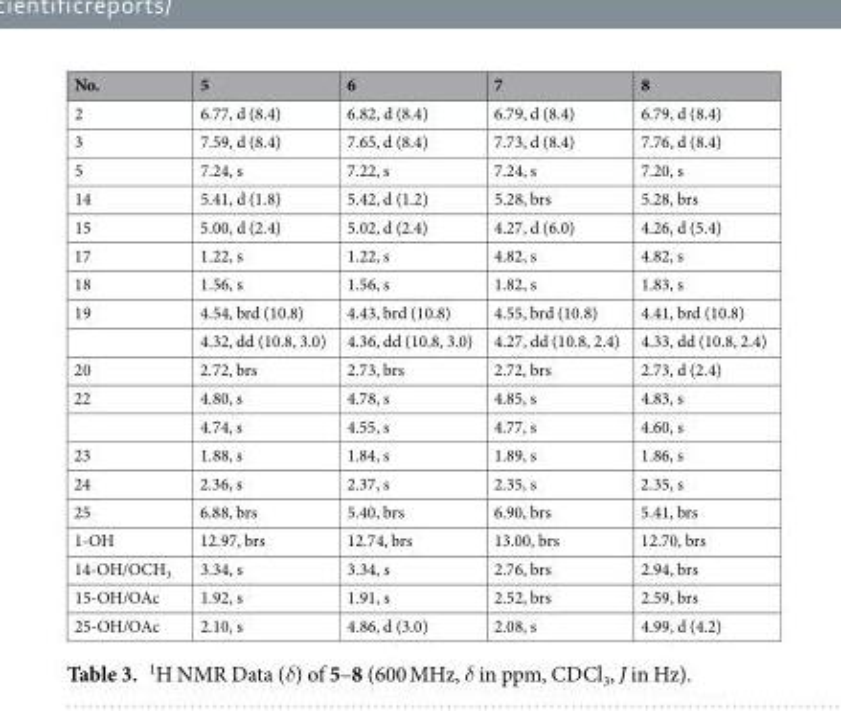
<table><thead><tr><td>No.</td><td>5</td><td>6</td><td>7</td><td>8</td></tr></thead><tbody><tr><td>2</td><td>6.77, d (8.4)</td><td>6.82, d (8.4)</td><td>6.79, d (8.4)</td><td>6.79, d (8.4)</td></tr><tr><td>3</td><td>7.59, d (8.4)</td><td>7.65, d (8.4)</td><td>7.73, d (8.4)</td><td>7.76, d (8.4)</td></tr><tr><td>5</td><td>7.24, s</td><td>7.22, s</td><td>7.24, s</td><td>7.20, s</td></tr><tr><td>14</td><td>5.41, d (1.8)</td><td>5.42, d (1.2)</td><td>5.28, brs</td><td>5.28, brs</td></tr><tr><td>15</td><td>5.00, d (2.4)</td><td>5.02, d (2.4)</td><td>4.27, d (6.0)</td><td>4.26, d (5.4)</td></tr><tr><td>17</td><td>1.22, s</td><td>1.22, s</td><td>4.82, s</td><td>4.82, s</td></tr><tr><td>18</td><td>1.56, s</td><td>1.56, s</td><td>1.82, s</td><td>1.83, s</td></tr><tr><td rowspan="2">19</td><td>4.54, brd (10.8)</td><td>4.43, brd (10.8)</td><td>4.55, brd (10.8)</td><td>4.41, brd (10.8)</td></tr><tr><td>4.32, dd (10.8, 3.0)</td><td>4.36, dd (10.8, 3.0)</td><td>4.27, dd (10.8, 2.4)</td><td>4.33, dd (10.8, 2.4)</td></tr><tr><td>20</td><td>2.72, brs</td><td>2.73, brs</td><td>2.72, brs</td><td>2.73, d (2.4)</td></tr><tr><td rowspan="2">22</td><td>4.80, s</td><td>4.78, s</td><td>4.85, s</td><td>4.83, s</td></tr><tr><td>4.74, s</td><td>4.55, s</td><td>4.77, s</td><td>4.60, s</td></tr><tr><td>23</td><td>1.88, s</td><td>1.84, s</td><td>1.89, s</td><td>1.86, s</td></tr><tr><td>24</td><td>2.36, s</td><td>2.37, s</td><td>2.35, s</td><td>2.35, s</td></tr><tr><td>25</td><td>6.88, brs</td><td>5.40, brs</td><td>6.90, brs</td><td>5.41, brs</td></tr><tr><td>1-OH</td><td>12.97, brs</td><td>12.74, brs</td><td>13.00, brs</td><td>12.70, brs</td></tr><tr><td>14-OH/OCH<sub>3</sub></td><td>3.34, s</td><td>3.34, s</td><td>2.76, brs</td><td>2.94, brs</td></tr><tr><td>15-OH/OAc</td><td>1.92, s</td><td>1.91, s</td><td>2.52, brs</td><td>2.59, brs</td></tr><tr><td>25-OH/OAc</td><td>2.10, s</td><td>4.86, d (3.0)</td><td>2.08, s</td><td>4.99, d (4.2)</td></tr></tbody></table>